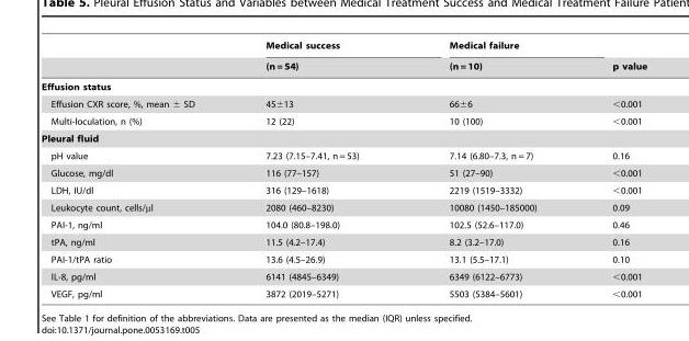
<table><thead><tr><td rowspan="2"></td><td rowspan="2">Medical success (n = 54)</td><td rowspan="2">Medical failure (n = 10)</td><td rowspan="2">p value</td></tr><tr></tr></thead><tbody><tr><td colspan="4">Effusion status</td></tr><tr><td>Effusion CXR score, %, mean ± SD</td><td>45±13</td><td>66±6</td><td>&lt;0.001</td></tr><tr><td>Multi-loculation, n (%)</td><td>12 (22)</td><td>10 (100)</td><td>&lt;0.001</td></tr><tr><td colspan="4">Pleural fluid</td></tr><tr><td>pH value</td><td>7.23 (7.15–7.41, n = 53)</td><td>7.14 (6.80–7.3, n = 7)</td><td>0.16</td></tr><tr><td>Glucose, mg/dl</td><td>116 (77–157)</td><td>51 (27–90)</td><td>&lt;0.001</td></tr><tr><td>LDH, IU/dl</td><td>316 (129–1618)</td><td>2219 (1519–3332)</td><td>&lt;0.001</td></tr><tr><td>Leukocyte count, cells/µl</td><td>2080 (460–8230)</td><td>10080 (1450–185000)</td><td>0.09</td></tr><tr><td>PAI-1, ng/ml</td><td>104.0 (80.8–198.0)</td><td>102.5 (52.6–117.0)</td><td>0.46</td></tr><tr><td>tPA, ng/ml</td><td>11.5 (4.2–17.4)</td><td>8.2 (3.2–17.0)</td><td>0.16</td></tr><tr><td>PAI-1/tPA ratio</td><td>13.6 (4.5–26.9)</td><td>13.1 (5.5–17.1)</td><td>0.10</td></tr><tr><td>IL-8, pg/ml</td><td>6141 (4845–6349)</td><td>6349 (6122–6773)</td><td>&lt;0.001</td></tr><tr><td>VEGF, pg/ml</td><td>3872 (2019–5271)</td><td>5503 (5384–5601)</td><td>&lt;0.001</td></tr></tbody></table>